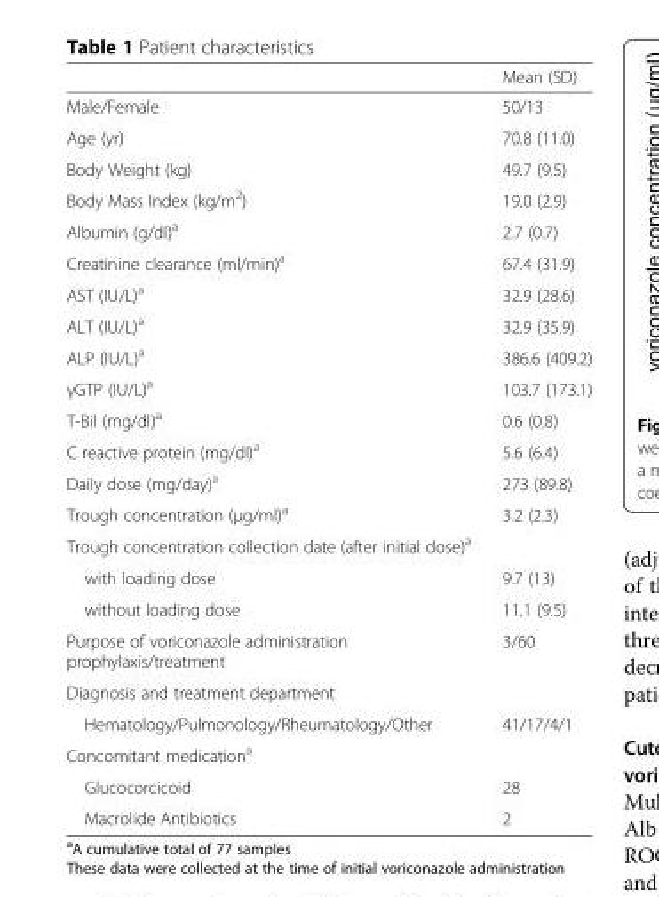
<table><thead><tr><td></td><td>Mean (SD)</td></tr></thead><tbody><tr><td>Male/Female</td><td>50/13</td></tr><tr><td>Age (yr)</td><td>70.8 (11.0)</td></tr><tr><td>Body Weight (kg)</td><td>49.7 (9.5)</td></tr><tr><td>Body Mass Index (kg/m<sup>2</sup>)</td><td>19.0 (2.9)</td></tr><tr><td>Albumin (g/dl)<sup>a</sup></td><td>2.7 (0.7)</td></tr><tr><td>Creatinine clearance (ml/min)<sup>a</sup></td><td>67.4 (31.9)</td></tr><tr><td>AST (IU/L)<sup>a</sup></td><td>32.9 (28.6)</td></tr><tr><td>ALT (IU/L)<sup>a</sup></td><td>32.9 (35.9)</td></tr><tr><td>ALP (IU/L)<sup>a</sup></td><td>386.6 (409.2)</td></tr><tr><td>γGTP (IU/L)<sup>a</sup></td><td>103.7 (173.1)</td></tr><tr><td>T-Bil (mg/dl)<sup>a</sup></td><td>0.6 (0.8)</td></tr><tr><td>C reactive protein (mg/dl)<sup>a</sup></td><td>5.6 (6.4)</td></tr><tr><td>Daily dose (mg/day)<sup>a</sup></td><td>273 (89.8)</td></tr><tr><td>Trough concentration (μg/ml)<sup>a</sup></td><td>3.2 (2.3)</td></tr><tr><td colspan="2">Trough concentration collection date (after initial dose)<sup>a</sup></td></tr><tr><td>with loading dose</td><td>9.7 (13)</td></tr><tr><td>without loading dose</td><td>11.1 (9.5)</td></tr><tr><td>Purpose of voriconazole administration prophylaxis/treatment</td><td>3/60</td></tr><tr><td colspan="2">Diagnosis and treatment department</td></tr><tr><td>Hematology/Pulmonology/Rheumatology/Other</td><td>41/17/4/1</td></tr><tr><td colspan="2">Concomitant medication<sup>a</sup></td></tr><tr><td>Glucocorcicoid</td><td>28</td></tr><tr><td>Macrolide Antibiotics</td><td>2</td></tr></tbody></table>